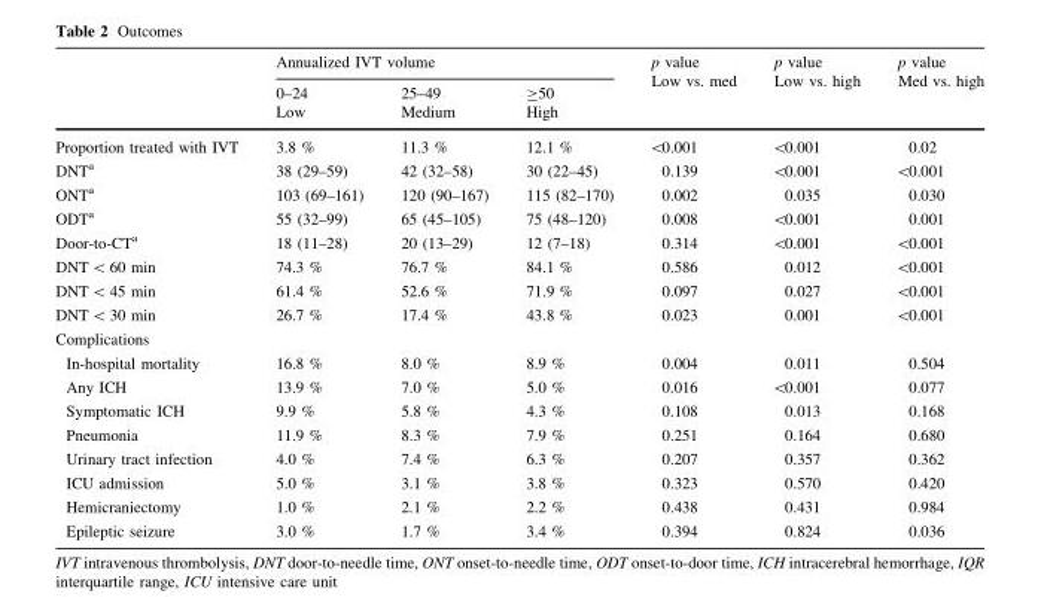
<table><thead><tr><td rowspan="2"></td><td colspan="3">Annualized IVT volume</td><td rowspan="2">p value Low vs. med</td><td rowspan="2">p value Low vs. high</td><td rowspan="2">p value Med vs. high</td></tr><tr><td>0–24 Low</td><td>25–49 Medium</td><td>≥50 High</td></tr></thead><tbody><tr><td>Proportion treated with IVT</td><td>3.8 %</td><td>11.3 %</td><td>12.1 %</td><td>&lt;0.001</td><td>&lt;0.001</td><td>0.02</td></tr><tr><td>DNT<sup>a</sup></td><td>38 (29–59)</td><td>42 (32–58)</td><td>30 (22–45)</td><td>0.139</td><td>&lt;0.001</td><td>&lt;0.001</td></tr><tr><td>ONT<sup>a</sup></td><td>103 (69–161)</td><td>120 (90–167)</td><td>115 (82–170)</td><td>0.002</td><td>0.035</td><td>0.030</td></tr><tr><td>ODT<sup>a</sup></td><td>55 (32–99)</td><td>65 (45–105)</td><td>75 (48–120)</td><td>0.008</td><td>&lt;0.001</td><td>0.001</td></tr><tr><td>Door-to-CT<sup>a</sup></td><td>18 (11–28)</td><td>20 (13–29)</td><td>12 (7–18)</td><td>0.314</td><td>&lt;0.001</td><td>&lt;0.001</td></tr><tr><td>DNT &lt; 60 min</td><td>74.3 %</td><td>76.7 %</td><td>84.1 %</td><td>0.586</td><td>0.012</td><td>&lt;0.001</td></tr><tr><td>DNT &lt; 45 min</td><td>61.4 %</td><td>52.6 %</td><td>71.9 %</td><td>0.097</td><td>0.027</td><td>&lt;0.001</td></tr><tr><td>DNT &lt; 30 min</td><td>26.7 %</td><td>17.4 %</td><td>43.8 %</td><td>0.023</td><td>0.001</td><td>&lt;0.001</td></tr><tr><td colspan="7">Complications</td></tr><tr><td>In-hospital mortality</td><td>16.8 %</td><td>8.0 %</td><td>8.9 %</td><td>0.004</td><td>0.011</td><td>0.504</td></tr><tr><td>Any ICH</td><td>13.9 %</td><td>7.0 %</td><td>5.0 %</td><td>0.016</td><td>&lt;0.001</td><td>0.077</td></tr><tr><td>Symptomatic ICH</td><td>9.9 %</td><td>5.8 %</td><td>4.3 %</td><td>0.108</td><td>0.013</td><td>0.168</td></tr><tr><td>Pneumonia</td><td>11.9 %</td><td>8.3 %</td><td>7.9 %</td><td>0.251</td><td>0.164</td><td>0.680</td></tr><tr><td>Urinary tract infection</td><td>4.0 %</td><td>7.4 %</td><td>6.3 %</td><td>0.207</td><td>0.357</td><td>0.362</td></tr><tr><td>ICU admission</td><td>5.0 %</td><td>3.1 %</td><td>3.8 %</td><td>0.323</td><td>0.570</td><td>0.420</td></tr><tr><td>Hemicraniectomy</td><td>1.0 %</td><td>2.1 %</td><td>2.2 %</td><td>0.438</td><td>0.431</td><td>0.984</td></tr><tr><td>Epileptic seizure</td><td>3.0 %</td><td>1.7 %</td><td>3.4 %</td><td>0.394</td><td>0.824</td><td>0.036</td></tr></tbody></table>